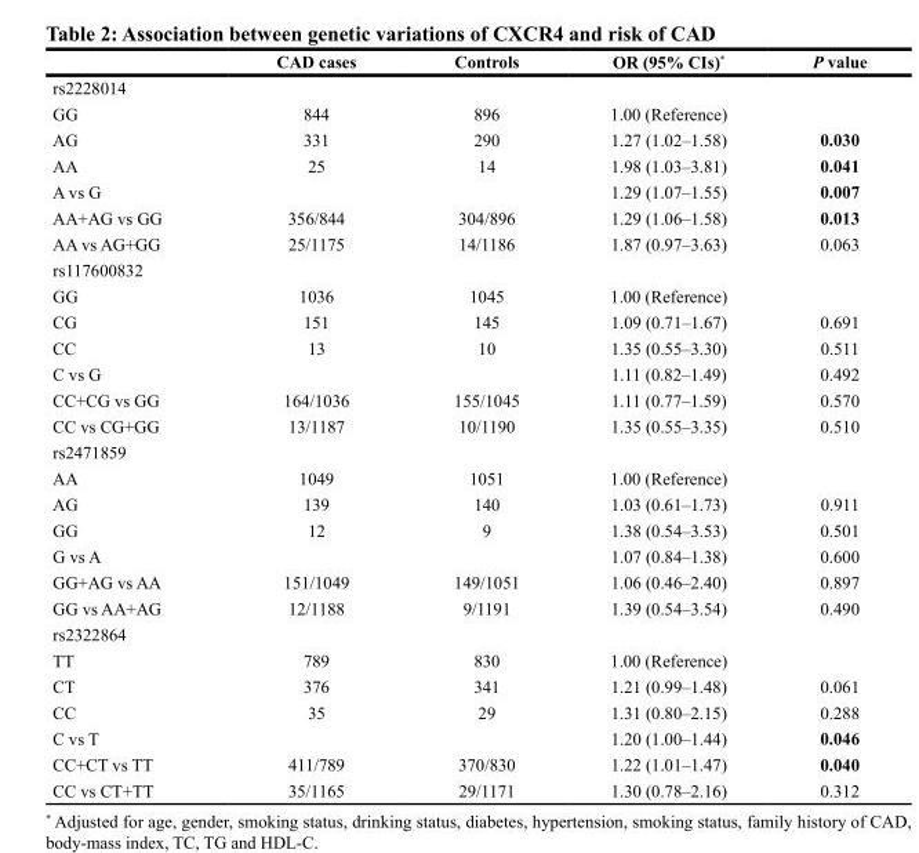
<table><thead><tr><td></td><td>CAD cases</td><td>Controls</td><td>OR (95% CIs)*</td><td>P value</td></tr></thead><tbody><tr><td colspan="5">rs2228014</td></tr><tr><td>GG</td><td>844</td><td>896</td><td>1.00 (Reference)</td><td></td></tr><tr><td>AG</td><td>331</td><td>290</td><td>1.27 (1.02–1.58)</td><td>0.030</td></tr><tr><td>AA</td><td>25</td><td>14</td><td>1.98 (1.03–3.81)</td><td>0.041</td></tr><tr><td>A vs G</td><td></td><td></td><td>1.29 (1.07–1.55)</td><td>0.007</td></tr><tr><td>AA+AG vs GG</td><td>356/844</td><td>304/896</td><td>1.29 (1.06–1.58)</td><td>0.013</td></tr><tr><td>AA vs AG+GG</td><td>25/1175</td><td>14/1186</td><td>1.87 (0.97–3.63)</td><td>0.063</td></tr><tr><td colspan="5">rs117600832</td></tr><tr><td>GG</td><td>1036</td><td>1045</td><td>1.00 (Reference)</td><td></td></tr><tr><td>CG</td><td>151</td><td>145</td><td>1.09 (0.71–1.67)</td><td>0.691</td></tr><tr><td>CC</td><td>13</td><td>10</td><td>1.35 (0.55–3.30)</td><td>0.511</td></tr><tr><td>C vs G</td><td></td><td></td><td>1.11 (0.82–1.49)</td><td>0.492</td></tr><tr><td>CC+CG vs GG</td><td>164/1036</td><td>155/1045</td><td>1.11 (0.77–1.59)</td><td>0.570</td></tr><tr><td>CC vs CG+GG</td><td>13/1187</td><td>10/1190</td><td>1.35 (0.55–3.35)</td><td>0.510</td></tr><tr><td colspan="5">rs2471859</td></tr><tr><td>AA</td><td>1049</td><td>1051</td><td>1.00 (Reference)</td><td></td></tr><tr><td>AG</td><td>139</td><td>140</td><td>1.03 (0.61–1.73)</td><td>0.911</td></tr><tr><td>GG</td><td>12</td><td>9</td><td>1.38 (0.54–3.53)</td><td>0.501</td></tr><tr><td>G vs A</td><td></td><td></td><td>1.07 (0.84–1.38)</td><td>0.600</td></tr><tr><td>GG+AG vs AA</td><td>151/1049</td><td>149/1051</td><td>1.06 (0.46–2.40)</td><td>0.897</td></tr><tr><td>GG vs AA+AG</td><td>12/1188</td><td>9/1191</td><td>1.39 (0.54–3.54)</td><td>0.490</td></tr><tr><td colspan="5">rs2322864</td></tr><tr><td>TT</td><td>789</td><td>830</td><td>1.00 (Reference)</td><td></td></tr><tr><td>CT</td><td>376</td><td>341</td><td>1.21 (0.99–1.48)</td><td>0.061</td></tr><tr><td>CC</td><td>35</td><td>29</td><td>1.31 (0.80–2.15)</td><td>0.288</td></tr><tr><td>C vs T</td><td></td><td></td><td>1.20 (1.00–1.44)</td><td>0.046</td></tr><tr><td>CC+CT vs TT</td><td>411/789</td><td>370/830</td><td>1.22 (1.01–1.47)</td><td>0.040</td></tr><tr><td>CC vs CT+TT</td><td>35/1165</td><td>29/1171</td><td>1.30 (0.78–2.16)</td><td>0.312</td></tr></tbody></table>